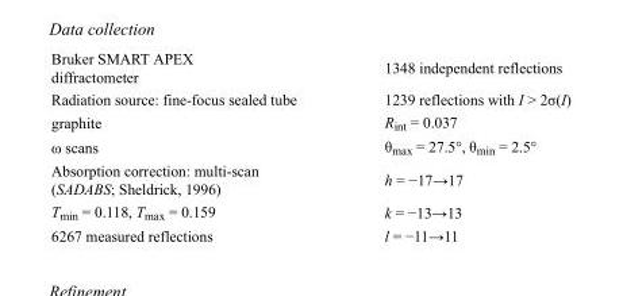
<table><tbody><tr><td>Bruker SMART APEX diffractometer</td><td>1348 independent reflections</td></tr><tr><td>Radiation source: fine-focus sealed tube</td><td>1239 reflections with I &gt; 2σ(I)</td></tr><tr><td>graphite</td><td>R<sub>int</sub> = 0.037</td></tr><tr><td>ω scans</td><td>θ<sub>max</sub> = 27.5°, θ<sub>min</sub> = 2.5°</td></tr><tr><td>Absorption correction: multi-scan (SADABS; Sheldrick, 1996)</td><td>h = −17→17</td></tr><tr><td>T<sub>min</sub> = 0.118, T<sub>max</sub> = 0.159</td><td>k = −13→13</td></tr><tr><td>6267 measured reflections</td><td>l = −11→11</td></tr></tbody></table>